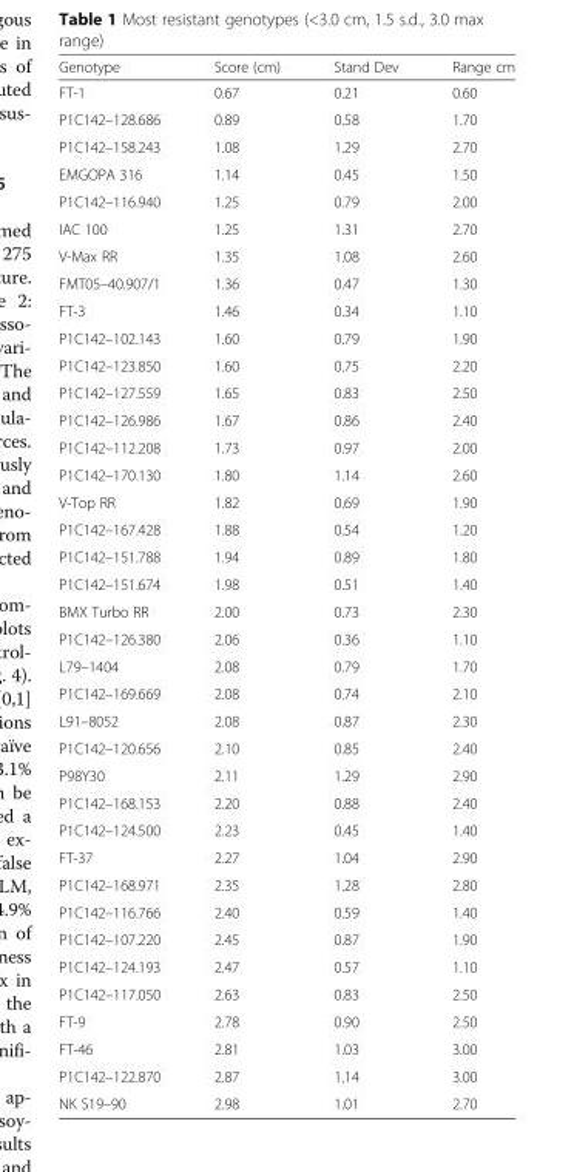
<table><thead><tr><td>Genotype</td><td>Score (cm)</td><td>Stand Dev</td><td>Range cm</td></tr></thead><tbody><tr><td>FT-1</td><td>0.67</td><td>0.21</td><td>0.60</td></tr><tr><td>P1C142–128.686</td><td>0.89</td><td>0.58</td><td>1.70</td></tr><tr><td>P1C142–158.243</td><td>1.08</td><td>1.29</td><td>2.70</td></tr><tr><td>EMGOPA 316</td><td>1.14</td><td>0.45</td><td>1.50</td></tr><tr><td>P1C142–116.940</td><td>1.25</td><td>0.79</td><td>2.00</td></tr><tr><td>IAC 100</td><td>1.25</td><td>1.31</td><td>2.70</td></tr><tr><td>V-Max RR</td><td>1.35</td><td>1.08</td><td>2.60</td></tr><tr><td>FMT05–40.907/1</td><td>1.36</td><td>0.47</td><td>1.30</td></tr><tr><td>FT-3</td><td>1.46</td><td>0.34</td><td>1.10</td></tr><tr><td>P1C142–102.143</td><td>1.60</td><td>0.79</td><td>1.90</td></tr><tr><td>P1C142–123.850</td><td>1.60</td><td>0.75</td><td>2.20</td></tr><tr><td>P1C142–127.559</td><td>1.65</td><td>0.83</td><td>2.50</td></tr><tr><td>P1C142–126.986</td><td>1.67</td><td>0.86</td><td>2.40</td></tr><tr><td>P1C142–112.208</td><td>1.73</td><td>0.97</td><td>2.00</td></tr><tr><td>P1C142–170.130</td><td>1.80</td><td>1.14</td><td>2.60</td></tr><tr><td>V-Top RR</td><td>1.82</td><td>0.69</td><td>1.90</td></tr><tr><td>P1C142–167.428</td><td>1.88</td><td>0.54</td><td>1.20</td></tr><tr><td>P1C142–151.788</td><td>1.94</td><td>0.89</td><td>1.80</td></tr><tr><td>P1C142–151.674</td><td>1.98</td><td>0.51</td><td>1.40</td></tr><tr><td>BMX Turbo RR</td><td>2.00</td><td>0.73</td><td>2.30</td></tr><tr><td>P1C142–126.380</td><td>2.06</td><td>0.36</td><td>1.10</td></tr><tr><td>L79–1404</td><td>2.08</td><td>0.79</td><td>1.70</td></tr><tr><td>P1C142–169.669</td><td>2.08</td><td>0.74</td><td>2.10</td></tr><tr><td>L91–8052</td><td>2.08</td><td>0.87</td><td>2.30</td></tr><tr><td>P1C142–120.656</td><td>2.10</td><td>0.85</td><td>2.40</td></tr><tr><td>P98Y30</td><td>2.11</td><td>1.29</td><td>2.90</td></tr><tr><td>P1C142–168.153</td><td>2.20</td><td>0.88</td><td>2.40</td></tr><tr><td>P1C142–124.500</td><td>2.23</td><td>0.45</td><td>1.40</td></tr><tr><td>FT-37</td><td>2.27</td><td>1.04</td><td>2.90</td></tr><tr><td>P1C142–168.971</td><td>2.35</td><td>1.28</td><td>2.80</td></tr><tr><td>P1C142–116.766</td><td>2.40</td><td>0.59</td><td>1.40</td></tr><tr><td>P1C142–107.220</td><td>2.45</td><td>0.87</td><td>1.90</td></tr><tr><td>P1C142–124.193</td><td>2.47</td><td>0.57</td><td>1.10</td></tr><tr><td>P1C142–117.050</td><td>2.63</td><td>0.83</td><td>2.50</td></tr><tr><td>FT-9</td><td>2.78</td><td>0.90</td><td>2.50</td></tr><tr><td>FT-46</td><td>2.81</td><td>1.03</td><td>3.00</td></tr><tr><td>P1C142–122.870</td><td>2.87</td><td>1.14</td><td>3.00</td></tr><tr><td>NK S19–90</td><td>2.98</td><td>1.01</td><td>2.70</td></tr></tbody></table>